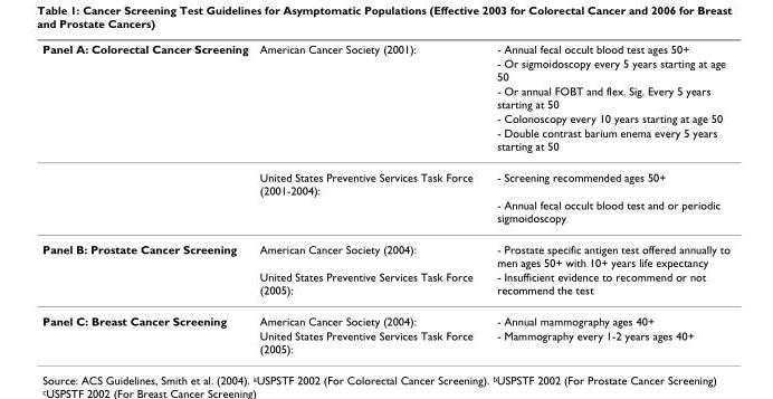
<table><thead><tr><td rowspan="5">Panel A: Colorectal Cancer Screening</td><td rowspan="5">American Cancer Society (2001):</td><td rowspan="5">- Annual fecal occult blood test ages 50+ - Or sigmoidoscopy every 5 years starting at age 50 - Or annual FOBT and flex. Sig. Every 5 years starting at 50 - Colonoscopy every 10 years starting at age 50 - Double contrast barium enema every 5 years starting at 50</td></tr><tr></tr><tr></tr><tr></tr><tr></tr></thead><tbody><tr><td></td><td>United States Preventive Services Task Force (2001-2004):</td><td>- Screening recommended ages 50+</td></tr><tr><td></td><td></td><td>- Annual fecal occult blood test and or periodic sigmoidoscopy</td></tr><tr><td rowspan="2">Panel B: Prostate Cancer Screening</td><td>American Cancer Society (2004):</td><td>- Prostate specific antigen test offered annually to men ages 50+ with 10+ years life expectancy</td></tr><tr><td>United States Preventive Services Task Force (2005):</td><td>- Insufficient evidence to recommend or not recommend the test</td></tr><tr><td rowspan="2">Panel C: Breast Cancer Screening</td><td>American Cancer Society (2004):</td><td>- Annual mammography ages 40+</td></tr><tr><td>United States Preventive Services Task Force (2005):</td><td>- Mammography every 1-2 years ages 40+</td></tr></tbody></table>